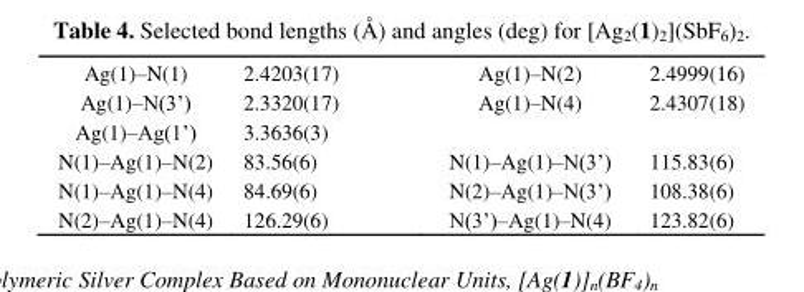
<table><tbody><tr><td>Ag(1)–N(1)</td><td>2.4203(17)</td><td>Ag(1)–N(2)</td><td>2.4999(16)</td></tr><tr><td>Ag(1)–N(3’)</td><td>2.3320(17)</td><td>Ag(1)–N(4)</td><td>2.4307(18)</td></tr><tr><td>Ag(1)–Ag(1’)</td><td>3.3636(3)</td><td></td><td></td></tr><tr><td>N(1)–Ag(1)–N(2)</td><td>83.56(6)</td><td>N(1)–Ag(1)–N(3’)</td><td>115.83(6)</td></tr><tr><td>N(1)–Ag(1)–N(4)</td><td>84.69(6)</td><td>N(2)–Ag(1)–N(3’)</td><td>108.38(6)</td></tr><tr><td>N(2)–Ag(1)–N(4)</td><td>126.29(6)</td><td>N(3’)–Ag(1)–N(4)</td><td>123.82(6)</td></tr></tbody></table>